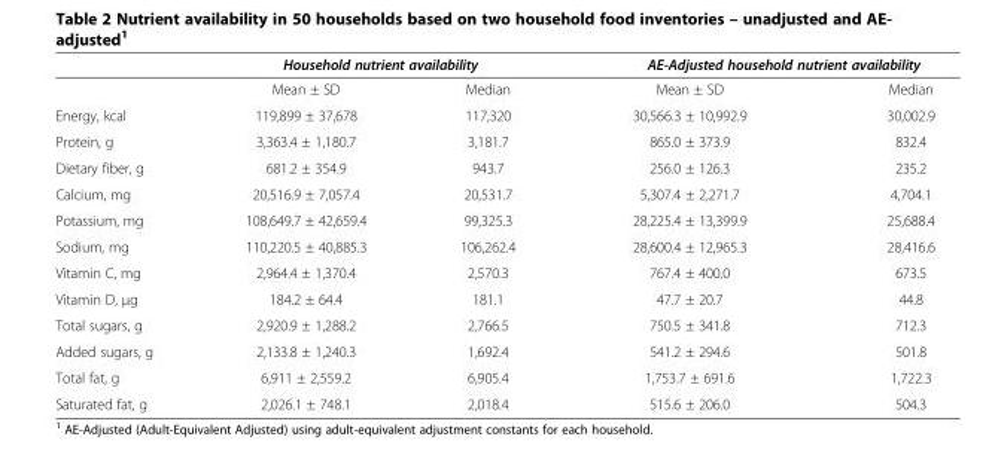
<table><thead><tr><td rowspan="2"></td><td colspan="2">Household nutrient availability</td><td colspan="2">AE-Adjusted household nutrient availability</td></tr><tr><td>Mean ± SD</td><td>Median</td><td>Mean ± SD</td><td>Median</td></tr></thead><tbody><tr><td>Energy, kcal</td><td>119,899 ± 37,678</td><td>117,320</td><td>30,566.3 ± 10,992.9</td><td>30,002.9</td></tr><tr><td>Protein, g</td><td>3,363.4 ± 1,180.7</td><td>3,181.7</td><td>865.0 ± 373.9</td><td>832.4</td></tr><tr><td>Dietary fiber, g</td><td>681.2 ± 354.9</td><td>943.7</td><td>256.0 ± 126.3</td><td>235.2</td></tr><tr><td>Calcium, mg</td><td>20,516.9 ± 7,057.4</td><td>20,531.7</td><td>5,307.4 ± 2,271.7</td><td>4,704.1</td></tr><tr><td>Potassium, mg</td><td>108,649.7 ± 42,659.4</td><td>99,325.3</td><td>28,225.4 ± 13,399.9</td><td>25,688.4</td></tr><tr><td>Sodium, mg</td><td>110,220.5 ± 40,885.3</td><td>106,262.4</td><td>28,600.4 ± 12,965.3</td><td>28,416.6</td></tr><tr><td>Vitamin C, mg</td><td>2,964.4 ± 1,370.4</td><td>2,570.3</td><td>767.4 ± 400.0</td><td>673.5</td></tr><tr><td>Vitamin D, μg</td><td>184.2 ± 64.4</td><td>181.1</td><td>47.7 ± 20.7</td><td>44.8</td></tr><tr><td>Total sugars, g</td><td>2,920.9 ± 1,288.2</td><td>2,766.5</td><td>750.5 ± 341.8</td><td>712.3</td></tr><tr><td>Added sugars, g</td><td>2,133.8 ± 1,240.3</td><td>1,692.4</td><td>541.2 ± 294.6</td><td>501.8</td></tr><tr><td>Total fat, g</td><td>6,911 ± 2,559.2</td><td>6,905.4</td><td>1,753.7 ± 691.6</td><td>1,722.3</td></tr><tr><td>Saturated fat, g</td><td>2,026.1 ± 748.1</td><td>2,018.4</td><td>515.6 ± 206.0</td><td>504.3</td></tr></tbody></table>